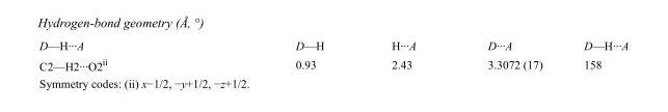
<table><tbody><tr><td>D—H···A</td><td>D—H</td><td>H···A</td><td>D···A</td><td>D—H···A</td></tr><tr><td>C2—H2···O2<sup>ii</sup></td><td>0.93</td><td>2.43</td><td>3.3072 (17)</td><td>158</td></tr></tbody></table>